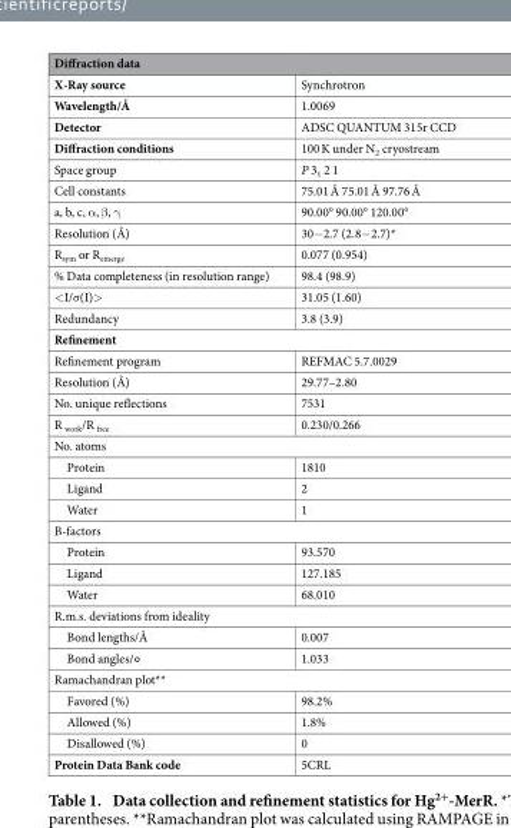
<table><thead><tr><td colspan="2">Diffraction data</td></tr><tr><td>X-Ray source</td><td>Synchrotron</td></tr></thead><tbody><tr><td>Wavelength/Å</td><td>1.0069</td></tr><tr><td>Detector</td><td>ADSC QUANTUM 315r CCD</td></tr><tr><td>Diffraction conditions</td><td>100 K under N<sub>2</sub> cryostream</td></tr><tr><td>Space group</td><td>P 3<sub>1</sub> 2 1</td></tr><tr><td>Cell constants</td><td>75.01 Å 75.01 Å 97.76 Å</td></tr><tr><td>a, b, c, α , β , γ</td><td>90.00° 90.00° 120.00°</td></tr><tr><td>Resolution (Å)</td><td>30− 2.7 (2.8− 2.7)*</td></tr><tr><td>R<sub>sym</sub> or R<sub>emerge</sub></td><td>0.077 (0.954)</td></tr><tr><td>% Data completeness (in resolution range)</td><td>98.4 (98.9)</td></tr><tr><td>&lt; I/σ (I)&gt;</td><td>31.05 (1.60)</td></tr><tr><td>Redundancy</td><td>3.8 (3.9)</td></tr><tr><td colspan="2">Refinement</td></tr><tr><td>Refinement program</td><td>REFMAC 5.7.0029</td></tr><tr><td>Resolution (Å)</td><td>29.77–2.80</td></tr><tr><td>No. unique reflections</td><td>7531</td></tr><tr><td>R <sub>work</sub>/R <sub>free</sub></td><td>0.230/0.266</td></tr><tr><td colspan="2">No. atoms</td></tr><tr><td>Protein</td><td>1810</td></tr><tr><td>Ligand</td><td>2</td></tr><tr><td>Water</td><td>1</td></tr><tr><td colspan="2">B-factors</td></tr><tr><td>Protein</td><td>93.570</td></tr><tr><td>Ligand</td><td>127.185</td></tr><tr><td>Water</td><td>68.010</td></tr><tr><td colspan="2">R.m.s. deviations from ideality</td></tr><tr><td>Bond lengths/Å</td><td>0.007</td></tr><tr><td>Bond angles/◦</td><td>1.033</td></tr><tr><td colspan="2">Ramachandran plot**</td></tr><tr><td>Favored (%)</td><td>98.2%</td></tr><tr><td>Allowed (%)</td><td>1.8%</td></tr><tr><td>Disallowed (%)</td><td>0</td></tr><tr><td>Protein Data Bank code</td><td>5CRL</td></tr></tbody></table>